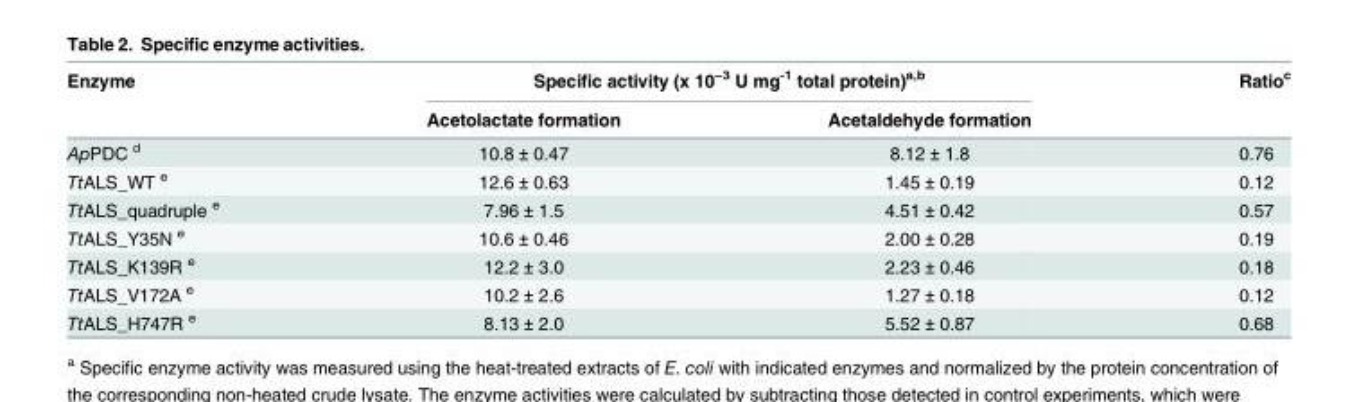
<table><thead><tr><td rowspan="2">Enzyme</td><td colspan="2">Specific activity (x 10<sup>−3</sup> U mg<sup>-1</sup> total protein)<sup>a,b</sup></td><td rowspan="2">Ratio<sup>c</sup></td></tr><tr><td>Acetolactate formation</td><td>Acetaldehyde formation</td></tr></thead><tbody><tr><td>ApPDC <sup>d</sup></td><td>10.8 ± 0.47</td><td>8.12 ± 1.8</td><td>0.76</td></tr><tr><td>TtALS_WT <sup>e</sup></td><td>12.6 ± 0.63</td><td>1.45 ± 0.19</td><td>0.12</td></tr><tr><td>TtALS_quadruple <sup>e</sup></td><td>7.96 ± 1.5</td><td>4.51 ± 0.42</td><td>0.57</td></tr><tr><td>TtALS_Y35N <sup>e</sup></td><td>10.6 ± 0.46</td><td>2.00 ± 0.28</td><td>0.19</td></tr><tr><td>TtALS_K139R <sup>e</sup></td><td>12.2 ± 3.0</td><td>2.23 ± 0.46</td><td>0.18</td></tr><tr><td>TtALS_V172A <sup>e</sup></td><td>10.2 ± 2.6</td><td>1.27 ± 0.18</td><td>0.12</td></tr><tr><td>TtALS_H747R <sup>e</sup></td><td>8.13 ± 2.0</td><td>5.52 ± 0.87</td><td>0.68</td></tr></tbody></table>